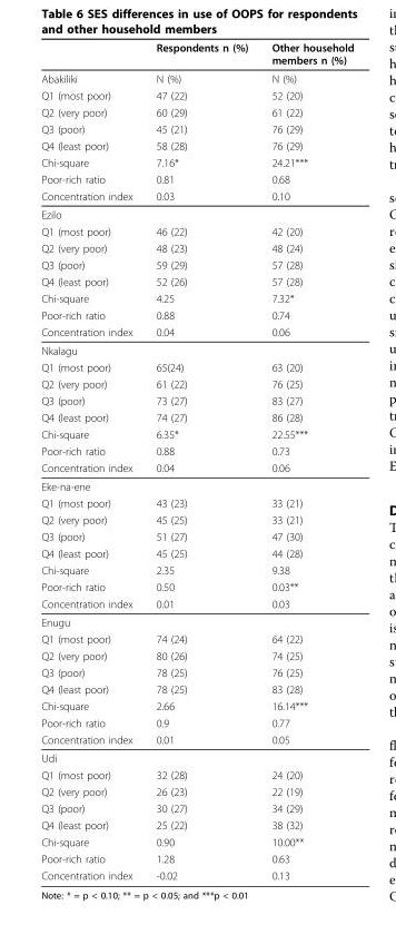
<table><thead><tr><td></td><td>Respondents n (%)</td><td>Other household members n (%)</td></tr></thead><tbody><tr><td>Abakiliki</td><td>N (%)</td><td>N (%)</td></tr><tr><td>Q1 (most poor)</td><td>47 (22)</td><td>52 (20)</td></tr><tr><td>Q2 (very poor)</td><td>60 (29)</td><td>61 (22)</td></tr><tr><td>Q3 (poor)</td><td>45 (21)</td><td>76 (29)</td></tr><tr><td>Q4 (least poor)</td><td>58 (28)</td><td>76 (29)</td></tr><tr><td>Chi-square</td><td>7.16*</td><td>24.21***</td></tr><tr><td>Poor-rich ratio</td><td>0.81</td><td>0.68</td></tr><tr><td>Concentration index</td><td>0.03</td><td>0.10</td></tr><tr><td colspan="3">Ezilo</td></tr><tr><td>Q1 (most poor)</td><td>46 (22)</td><td>42 (20)</td></tr><tr><td>Q2 (very poor)</td><td>48 (23)</td><td>48 (24)</td></tr><tr><td>Q3 (poor)</td><td>59 (29)</td><td>57 (28)</td></tr><tr><td>Q4 (least poor)</td><td>52 (26)</td><td>57 (28)</td></tr><tr><td>Chi-square</td><td>4.25</td><td>7.32*</td></tr><tr><td>Poor-rich ratio</td><td>0.88</td><td>0.74</td></tr><tr><td>Concentration index</td><td>0.04</td><td>0.06</td></tr><tr><td colspan="3">Nkalagu</td></tr><tr><td>Q1 (most poor)</td><td>65(24)</td><td>63 (20)</td></tr><tr><td>Q2 (very poor)</td><td>61 (22)</td><td>76 (25)</td></tr><tr><td>Q3 (poor)</td><td>73 (27)</td><td>83 (27)</td></tr><tr><td>Q4 (least poor)</td><td>74 (27)</td><td>86 (28)</td></tr><tr><td>Chi-square</td><td>6.35*</td><td>22.55***</td></tr><tr><td>Poor-rich ratio</td><td>0.88</td><td>0.73</td></tr><tr><td>Concentration index</td><td>0.04</td><td>0.06</td></tr><tr><td colspan="3">Eke-na-ene</td></tr><tr><td>Q1 (most poor)</td><td>43 (23)</td><td>33 (21)</td></tr><tr><td>Q2 (very poor)</td><td>45 (25)</td><td>33 (21)</td></tr><tr><td>Q3 (poor)</td><td>51 (27)</td><td>47 (30)</td></tr><tr><td>Q4 (least poor)</td><td>45 (25)</td><td>44 (28)</td></tr><tr><td>Chi-square</td><td>2.35</td><td>9.38</td></tr><tr><td>Poor-rich ratio</td><td>0.50</td><td>0.03**</td></tr><tr><td>Concentration index</td><td>0.01</td><td>0.03</td></tr><tr><td colspan="3">Enugu</td></tr><tr><td>Q1 (most poor)</td><td>74 (24)</td><td>64 (22)</td></tr><tr><td>Q2 (very poor)</td><td>80 (26)</td><td>74 (25)</td></tr><tr><td>Q3 (poor)</td><td>78 (25)</td><td>76 (25)</td></tr><tr><td>Q4 (least poor)</td><td>78 (25)</td><td>83 (28)</td></tr><tr><td>Chi-square</td><td>2.66</td><td>16.14***</td></tr><tr><td>Poor-rich ratio</td><td>0.9</td><td>0.77</td></tr><tr><td>Concentration index</td><td>0.01</td><td>0.05</td></tr><tr><td colspan="3">Udi</td></tr><tr><td>Q1 (most poor)</td><td>32 (28)</td><td>24 (20)</td></tr><tr><td>Q2 (very poor)</td><td>26 (23)</td><td>22 (19)</td></tr><tr><td>Q3 (poor)</td><td>30 (27)</td><td>34 (29)</td></tr><tr><td>Q4 (least poor)</td><td>25 (22)</td><td>38 (32)</td></tr><tr><td>Chi-square</td><td>0.90</td><td>10.00**</td></tr><tr><td>Poor-rich ratio</td><td>1.28</td><td>0.63</td></tr><tr><td>Concentration index</td><td>-0.02</td><td>0.13</td></tr></tbody></table>